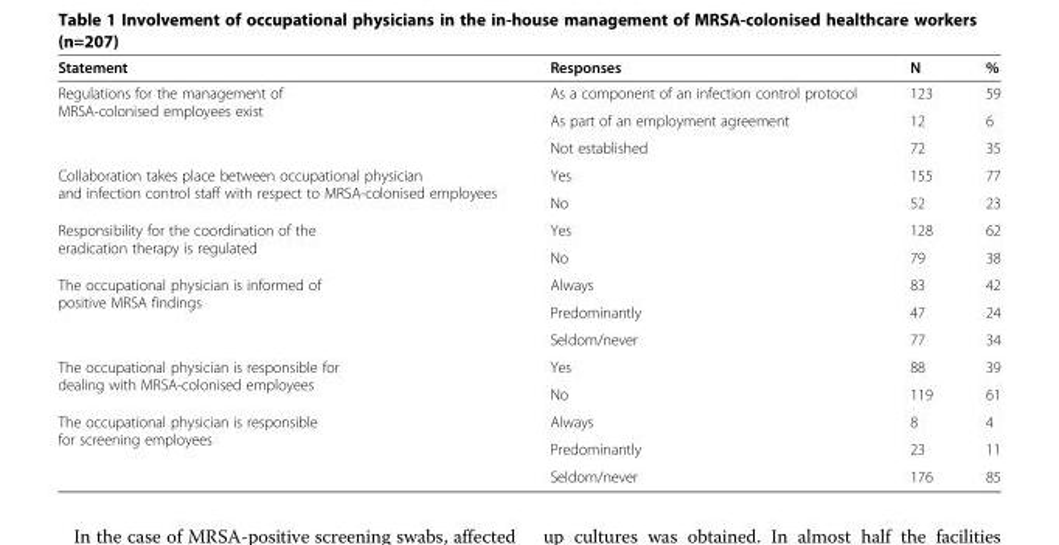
<table><thead><tr><td>Statement</td><td>Responses</td><td>N</td><td>%</td></tr></thead><tbody><tr><td rowspan="3">Regulations for the management of MRSA-colonised employees exist</td><td>As a component of an infection control protocol</td><td>123</td><td>59</td></tr><tr><td>As part of an employment agreement</td><td>12</td><td>6</td></tr><tr><td>Not established</td><td>72</td><td>35</td></tr><tr><td rowspan="2">Collaboration takes place between occupational physician and infection control staff with respect to MRSA-colonised employees</td><td>Yes</td><td>155</td><td>77</td></tr><tr><td>No</td><td>52</td><td>23</td></tr><tr><td rowspan="2">Responsibility for the coordination of the eradication therapy is regulated</td><td>Yes</td><td>128</td><td>62</td></tr><tr><td>No</td><td>79</td><td>38</td></tr><tr><td rowspan="3">The occupational physician is informed of positive MRSA findings</td><td>Always</td><td>83</td><td>42</td></tr><tr><td>Predominantly</td><td>47</td><td>24</td></tr><tr><td>Seldom/never</td><td>77</td><td>34</td></tr><tr><td rowspan="2">The occupational physician is responsible for dealing with MRSA-colonised employees</td><td>Yes</td><td>88</td><td>39</td></tr><tr><td>No</td><td>119</td><td>61</td></tr><tr><td rowspan="3">The occupational physician is responsible for screening employees</td><td>Always</td><td>8</td><td>4</td></tr><tr><td>Predominantly</td><td>23</td><td>11</td></tr><tr><td>Seldom/never</td><td>176</td><td>85</td></tr></tbody></table>